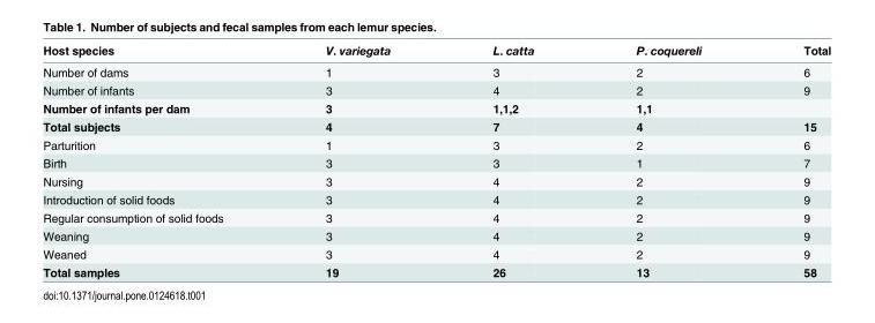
<table><thead><tr><td>Host species</td><td>V. variegata</td><td>L. catta</td><td>P. coquereli</td><td>Total</td></tr></thead><tbody><tr><td>Number of dams</td><td>1</td><td>3</td><td>2</td><td>6</td></tr><tr><td>Number of infants</td><td>3</td><td>4</td><td>2</td><td>9</td></tr><tr><td>Number of infants per dam</td><td>3</td><td>1,1,2</td><td>1,1</td><td></td></tr><tr><td>Total subjects</td><td>4</td><td>7</td><td>4</td><td>15</td></tr><tr><td>Parturition</td><td>1</td><td>3</td><td>2</td><td>6</td></tr><tr><td>Birth</td><td>3</td><td>3</td><td>1</td><td>7</td></tr><tr><td>Nursing</td><td>3</td><td>4</td><td>2</td><td>9</td></tr><tr><td>Introduction of solid foods</td><td>3</td><td>4</td><td>2</td><td>9</td></tr><tr><td>Regular consumption of solid foods</td><td>3</td><td>4</td><td>2</td><td>9</td></tr><tr><td>Weaning</td><td>3</td><td>4</td><td>2</td><td>9</td></tr><tr><td>Weaned</td><td>3</td><td>4</td><td>2</td><td>9</td></tr><tr><td>Total samples</td><td>19</td><td>26</td><td>13</td><td>58</td></tr></tbody></table>